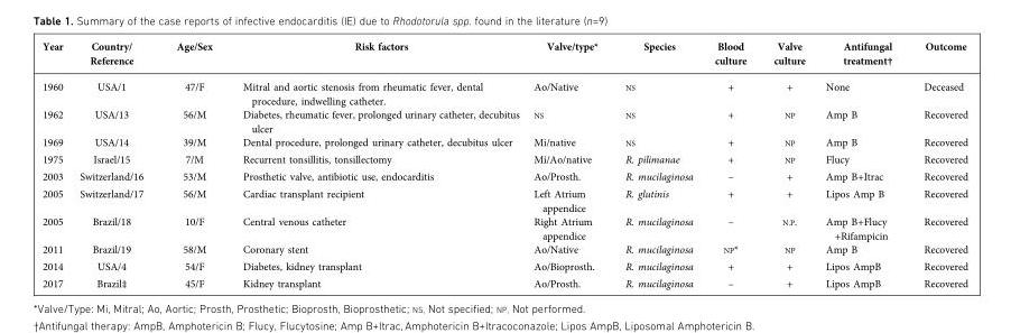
<table><thead><tr><td>Year</td><td>Country/ Reference</td><td>Age/Sex</td><td>Risk factors</td><td>Valve/type*</td><td>Species</td><td>Blood culture</td><td>Valve culture</td><td>Antifungal treatment†</td><td>Outcome</td></tr></thead><tbody><tr><td>1960</td><td>USA/1</td><td>47/F</td><td>Mitral and aortic stenosis from rheumatic fever, dental procedure, indwelling catheter.</td><td>Ao/Native</td><td>NS</td><td>+</td><td>+</td><td>None</td><td>Deceased</td></tr><tr><td>1962</td><td>USA/13</td><td>56/M</td><td>Diabetes, rheumatic fever, prolonged urinary catheter, decubitus ulcer</td><td>NS</td><td>NS</td><td>+</td><td>NP</td><td>Amp B</td><td>Recovered</td></tr><tr><td>1969</td><td>USA/14</td><td>39/M</td><td>Dental procedure, prolonged urinary catheter, decubitus ulcer</td><td>Mi/native</td><td>NS</td><td>+</td><td>NP</td><td>Amp B</td><td>Recovered</td></tr><tr><td>1975</td><td>Israel/15</td><td>7/M</td><td>Recurrent tonsillitis, tonsillectomy</td><td>Mi/Ao/native</td><td>R. pilimanae</td><td>+</td><td>NP</td><td>Flucy</td><td>Recovered</td></tr><tr><td>2003</td><td>Switzerland/16</td><td>53/M</td><td>Prosthetic valve, antibiotic use, endocarditis</td><td>Ao/Prosth.</td><td>R. mucilaginosa</td><td>–</td><td>+</td><td>Amp B+Itrac</td><td>Recovered</td></tr><tr><td>2005</td><td>Switzerland/17</td><td>56/M</td><td>Cardiac transplant recipient</td><td>Left Atrium appendice</td><td>R. glutinis</td><td>+</td><td>+</td><td>Lipos Amp B</td><td>Recovered</td></tr><tr><td>2005</td><td>Brazil/18</td><td>10/F</td><td>Central venous catheter</td><td>Right Atrium appendice</td><td>R. mucilaginosa</td><td>–</td><td>N.P.</td><td>Amp B+Flucy +Rifampicin</td><td>Recovered</td></tr><tr><td>2011</td><td>Brazil/19</td><td>58/M</td><td>Coronary stent</td><td>Ao/Native</td><td>R. mucilaginosa</td><td>NP*</td><td>NP</td><td>Amp B</td><td>Recovered</td></tr><tr><td>2014</td><td>USA/4</td><td>54/F</td><td>Diabetes, kidney transplant</td><td>Ao/Bioprosth.</td><td>R. mucilaginosa</td><td>+</td><td>+</td><td>Lipos AmpB</td><td>Recovered</td></tr><tr><td>2017</td><td>Brazil‡</td><td>45/F</td><td>Kidney transplant</td><td>Ao/Prosth.</td><td>R. mucilaginosa</td><td>–</td><td>+</td><td>Lipos AmpB</td><td>Recovered</td></tr></tbody></table>